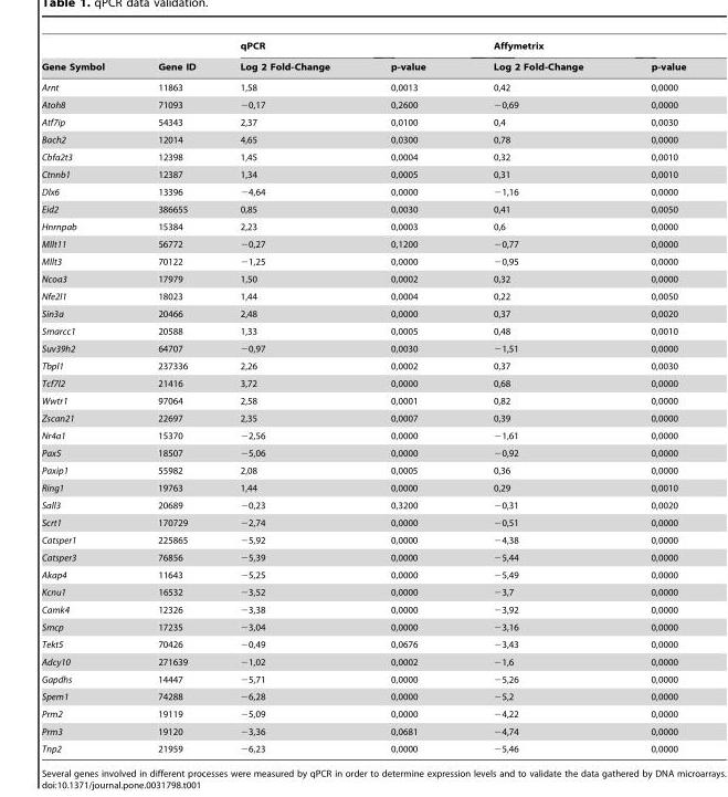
<table><thead><tr><td rowspan="2">Gene Symbol</td><td rowspan="2">Gene ID</td><td rowspan="2">qPCR Log 2 Fold-Change</td><td rowspan="2">p-value</td><td rowspan="2">Affymetrix Log 2 Fold-Change</td><td rowspan="2">p-value</td></tr><tr></tr></thead><tbody><tr><td>Arnt</td><td>11863</td><td>1,58</td><td>0,0013</td><td>0,42</td><td>0,0000</td></tr><tr><td>Atoh8</td><td>71093</td><td>−0,17</td><td>0,2600</td><td>−0,69</td><td>0,0000</td></tr><tr><td>Atf7ip</td><td>54343</td><td>2,37</td><td>0,0100</td><td>0,4</td><td>0,0030</td></tr><tr><td>Bach2</td><td>12014</td><td>4,65</td><td>0,0300</td><td>0,78</td><td>0,0000</td></tr><tr><td>Cbfa2t3</td><td>12398</td><td>1,45</td><td>0,0004</td><td>0,32</td><td>0,0010</td></tr><tr><td>Ctnnb1</td><td>12387</td><td>1,34</td><td>0,0005</td><td>0,31</td><td>0,0010</td></tr><tr><td>Dlx6</td><td>13396</td><td>−4,64</td><td>0,0000</td><td>−1,16</td><td>0,0000</td></tr><tr><td>Eid2</td><td>386655</td><td>0,85</td><td>0,0030</td><td>0,41</td><td>0,0050</td></tr><tr><td>Hnrnpab</td><td>15384</td><td>2,23</td><td>0,0003</td><td>0,6</td><td>0,0000</td></tr><tr><td>Mllt11</td><td>56772</td><td>−0,27</td><td>0,1200</td><td>−0,77</td><td>0,0000</td></tr><tr><td>Mllt3</td><td>70122</td><td>−1,25</td><td>0,0000</td><td>−0,95</td><td>0,0000</td></tr><tr><td>Ncoa3</td><td>17979</td><td>1,50</td><td>0,0002</td><td>0,32</td><td>0,0000</td></tr><tr><td>Nfe2l1</td><td>18023</td><td>1,44</td><td>0,0004</td><td>0,22</td><td>0,0050</td></tr><tr><td>Sin3a</td><td>20466</td><td>2,48</td><td>0,0000</td><td>0,37</td><td>0,0020</td></tr><tr><td>Smarcc1</td><td>20588</td><td>1,33</td><td>0,0005</td><td>0,48</td><td>0,0010</td></tr><tr><td>Suv39h2</td><td>64707</td><td>−0,97</td><td>0,0030</td><td>−1,51</td><td>0,0000</td></tr><tr><td>Tbpl1</td><td>237336</td><td>2,26</td><td>0,0002</td><td>0,37</td><td>0,0030</td></tr><tr><td>Tcf7l2</td><td>21416</td><td>3,72</td><td>0,0000</td><td>0,68</td><td>0,0000</td></tr><tr><td>Wwtr1</td><td>97064</td><td>2,58</td><td>0,0001</td><td>0,82</td><td>0,0000</td></tr><tr><td>Zscan21</td><td>22697</td><td>2,35</td><td>0,0007</td><td>0,39</td><td>0,0000</td></tr><tr><td>Nr4a1</td><td>15370</td><td>−2,56</td><td>0,0000</td><td>−1,61</td><td>0,0000</td></tr><tr><td>Pax5</td><td>18507</td><td>−5,06</td><td>0,0000</td><td>−0,92</td><td>0,0000</td></tr><tr><td>Paxip1</td><td>55982</td><td>2,08</td><td>0,0005</td><td>0,36</td><td>0,0000</td></tr><tr><td>Ring1</td><td>19763</td><td>1,44</td><td>0,0000</td><td>0,29</td><td>0,0010</td></tr><tr><td>Sall3</td><td>20689</td><td>−0,23</td><td>0,3200</td><td>−0,31</td><td>0,0020</td></tr><tr><td>Scrt1</td><td>170729</td><td>−2,74</td><td>0,0000</td><td>−0,51</td><td>0,0000</td></tr><tr><td>Catsper1</td><td>225865</td><td>−5,92</td><td>0,0000</td><td>−4,38</td><td>0,0000</td></tr><tr><td>Catsper3</td><td>76856</td><td>−5,39</td><td>0,0000</td><td>−5,44</td><td>0,0000</td></tr><tr><td>Akap4</td><td>11643</td><td>−5,25</td><td>0,0000</td><td>−5,49</td><td>0,0000</td></tr><tr><td>Kcnu1</td><td>16532</td><td>−3,52</td><td>0,0000</td><td>−3,7</td><td>0,0000</td></tr><tr><td>Camk4</td><td>12326</td><td>−3,38</td><td>0,0000</td><td>−3,92</td><td>0,0000</td></tr><tr><td>Smcp</td><td>17235</td><td>−3,04</td><td>0,0000</td><td>−3,16</td><td>0,0000</td></tr><tr><td>Tekt5</td><td>70426</td><td>−0,49</td><td>0,0676</td><td>−3,43</td><td>0,0000</td></tr><tr><td>Adcy10</td><td>271639</td><td>−1,02</td><td>0,0002</td><td>−1,6</td><td>0,0000</td></tr><tr><td>Gapdhs</td><td>14447</td><td>−5,71</td><td>0,0000</td><td>−5,26</td><td>0,0000</td></tr><tr><td>Spem1</td><td>74288</td><td>−6,28</td><td>0,0000</td><td>−5,2</td><td>0,0000</td></tr><tr><td>Prm2</td><td>19119</td><td>−5,09</td><td>0,0000</td><td>−4,22</td><td>0,0000</td></tr><tr><td>Prm3</td><td>19120</td><td>−3,36</td><td>0,0681</td><td>−4,74</td><td>0,0000</td></tr><tr><td>Tnp2</td><td>21959</td><td>−6,23</td><td>0,0000</td><td>−5,46</td><td>0,0000</td></tr></tbody></table>